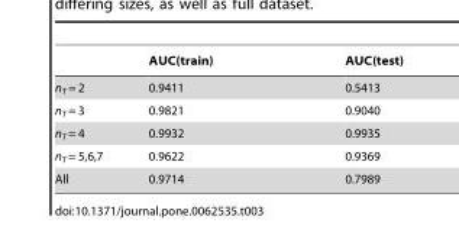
<table><thead><tr><td></td><td>AUC(train)</td><td>AUC(test)</td></tr></thead><tbody><tr><td>n<sub>T</sub> = 2</td><td>0.9411</td><td>0.5413</td></tr><tr><td>n<sub>T</sub> = 3</td><td>0.9821</td><td>0.9040</td></tr><tr><td>n<sub>T</sub> = 4</td><td>0.9932</td><td>0.9935</td></tr><tr><td>n<sub>T</sub> = 5,6,7</td><td>0.9622</td><td>0.9369</td></tr><tr><td>All</td><td>0.9714</td><td>0.7989</td></tr></tbody></table>